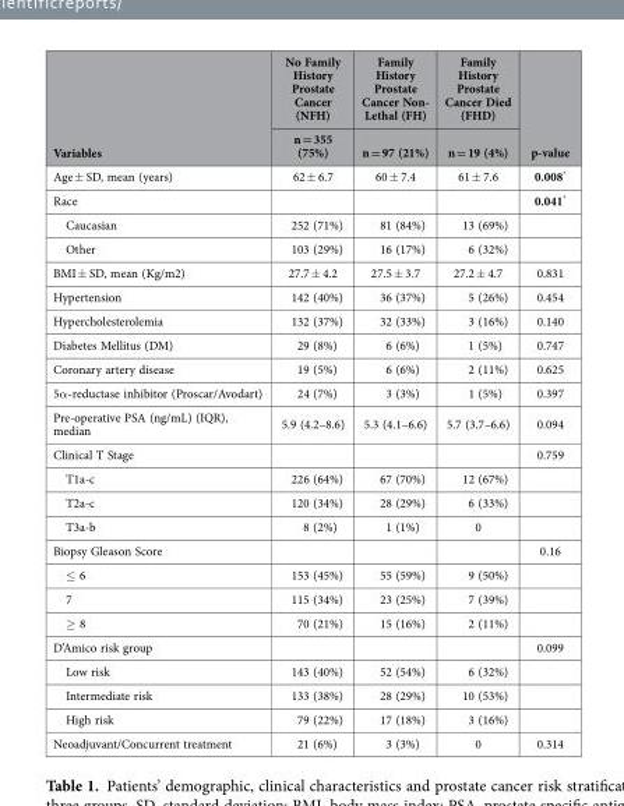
<table><thead><tr><td rowspan="2">Variables</td><td rowspan="2">No Family History Prostate Cancer (NFH) n = 355 (75%)</td><td rowspan="2">Family History Prostate Cancer Non- Lethal (FH) n = 97 (21%)</td><td rowspan="2">Family History Prostate Cancer Died (FHD) n = 19 (4%)</td><td rowspan="2">p-value</td></tr><tr></tr></thead><tbody><tr><td>Age ± SD, mean (years)</td><td>62 ± 6.7</td><td>60 ± 7.4</td><td>61 ± 7.6</td><td>0.008*</td></tr><tr><td>Race</td><td></td><td></td><td></td><td>0.041*</td></tr><tr><td>Caucasian</td><td>252 (71%)</td><td>81 (84%)</td><td>13 (69%)</td><td></td></tr><tr><td>Other</td><td>103 (29%)</td><td>16 (17%)</td><td>6 (32%)</td><td></td></tr><tr><td>BMI ± SD, mean (Kg/m2)</td><td>27.7 ± 4.2</td><td>27.5 ± 3.7</td><td>27.2 ± 4.7</td><td>0.831</td></tr><tr><td>Hypertension</td><td>142 (40%)</td><td>36 (37%)</td><td>5 (26%)</td><td>0.454</td></tr><tr><td>Hypercholesterolemia</td><td>132 (37%)</td><td>32 (33%)</td><td>3 (16%)</td><td>0.140</td></tr><tr><td>Diabetes Mellitus (DM)</td><td>29 (8%)</td><td>6 (6%)</td><td>1 (5%)</td><td>0.747</td></tr><tr><td>Coronary artery disease</td><td>19 (5%)</td><td>6 (6%)</td><td>2 (11%)</td><td>0.625</td></tr><tr><td>5α -reductase inhibitor (Proscar/Avodart)</td><td>24 (7%)</td><td>3 (3%)</td><td>1 (5%)</td><td>0.397</td></tr><tr><td>Pre-operative PSA (ng/mL) (IQR), median</td><td>5.9 (4.2–8.6)</td><td>5.3 (4.1–6.6)</td><td>5.7 (3.7–6.6)</td><td>0.094</td></tr><tr><td>Clinical T Stage</td><td></td><td></td><td></td><td>0.759</td></tr><tr><td>T1a-c</td><td>226 (64%)</td><td>67 (70%)</td><td>12 (67%)</td><td></td></tr><tr><td>T2a-c</td><td>120 (34%)</td><td>28 (29%)</td><td>6 (33%)</td><td></td></tr><tr><td>T3a-b</td><td>8 (2%)</td><td>1 (1%)</td><td>0</td><td></td></tr><tr><td>Biopsy Gleason Score</td><td></td><td></td><td></td><td>0.16</td></tr><tr><td>≤ 6</td><td>153 (45%)</td><td>55 (59%)</td><td>9 (50%)</td><td></td></tr><tr><td>7</td><td>115 (34%)</td><td>23 (25%)</td><td>7 (39%)</td><td></td></tr><tr><td>≥ 8</td><td>70 (21%)</td><td>15 (16%)</td><td>2 (11%)</td><td></td></tr><tr><td>D’Amico risk group</td><td></td><td></td><td></td><td>0.099</td></tr><tr><td>Low risk</td><td>143 (40%)</td><td>52 (54%)</td><td>6 (32%)</td><td></td></tr><tr><td>Intermediate risk</td><td>133 (38%)</td><td>28 (29%)</td><td>10 (53%)</td><td></td></tr><tr><td>High risk</td><td>79 (22%)</td><td>17 (18%)</td><td>3 (16%)</td><td></td></tr><tr><td>Neoadjuvant/Concurrent treatment</td><td>21 (6%)</td><td>3 (3%)</td><td>0</td><td>0.314</td></tr></tbody></table>